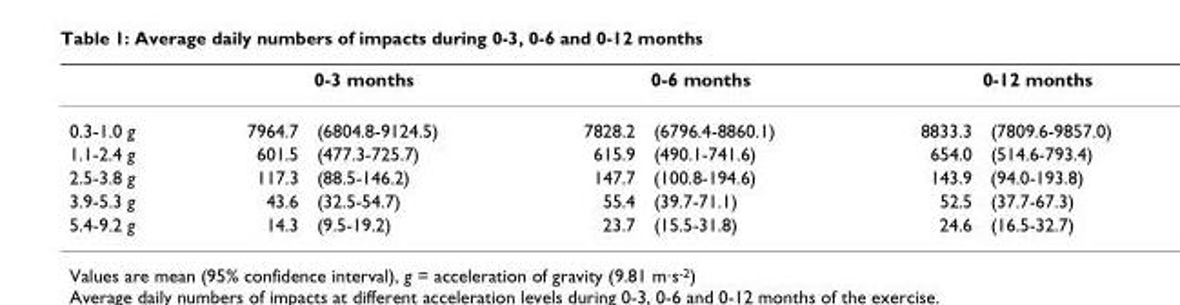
<table><thead><tr><td rowspan="2">0.3-1.0 g</td><td colspan="2">0-3 months</td><td colspan="2">0-6 months</td><td colspan="2">0-12 months</td></tr><tr><td>7964.7</td><td>(6804.8-9124.5)</td><td>7828.2</td><td>(6796.4-8860.1)</td><td>8833.3</td><td>(7809.6-9857.0)</td></tr></thead><tbody><tr><td>1.1-2.4 g</td><td>601.5</td><td>(477.3-725.7)</td><td>615.9</td><td>(490.1-741.6)</td><td>654.0</td><td>(514.6-793.4)</td></tr><tr><td>2.5-3.8 g</td><td>117.3</td><td>(88.5-146.2)</td><td>147.7</td><td>(100.8-194.6)</td><td>143.9</td><td>(94.0-193.8)</td></tr><tr><td>3.9-5.3 g</td><td>43.6</td><td>(32.5-54.7)</td><td>55.4</td><td>(39.7-71.1)</td><td>52.5</td><td>(37.7-67.3)</td></tr><tr><td>5.4-9.2 g</td><td>14.3</td><td>(9.5-19.2)</td><td>23.7</td><td>(15.5-31.8)</td><td>24.6</td><td>(16.5-32.7)</td></tr></tbody></table>